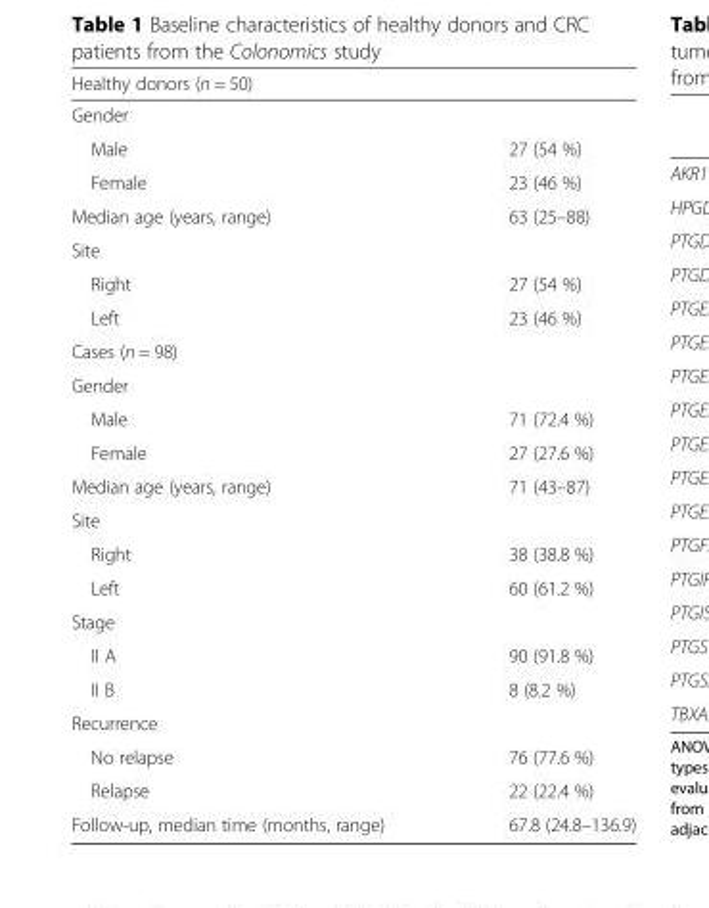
<table><tbody><tr><td colspan="2">Healthy donors (n = 50)</td></tr><tr><td colspan="2">Gender</td></tr><tr><td>Male</td><td>27 (54 %)</td></tr><tr><td>Female</td><td>23 (46 %)</td></tr><tr><td>Median age (years, range)</td><td>63 (25–88)</td></tr><tr><td colspan="2">Site</td></tr><tr><td>Right</td><td>27 (54 %)</td></tr><tr><td>Left</td><td>23 (46 %)</td></tr><tr><td colspan="2">Cases (n = 98)</td></tr><tr><td colspan="2">Gender</td></tr><tr><td>Male</td><td>71 (72.4 %)</td></tr><tr><td>Female</td><td>27 (27.6 %)</td></tr><tr><td>Median age (years, range)</td><td>71 (43–87)</td></tr><tr><td colspan="2">Site</td></tr><tr><td>Right</td><td>38 (38.8 %)</td></tr><tr><td>Left</td><td>60 (61.2 %)</td></tr><tr><td colspan="2">Stage</td></tr><tr><td>II A</td><td>90 (91.8 %)</td></tr><tr><td>II B</td><td>8 (8.2 %)</td></tr><tr><td colspan="2">Recurrence</td></tr><tr><td>No relapse</td><td>76 (77.6 %)</td></tr><tr><td>Relapse</td><td>22 (22.4 %)</td></tr><tr><td>Follow-up, median time (months, range)</td><td>67.8 (24.8–136.9)</td></tr></tbody></table>